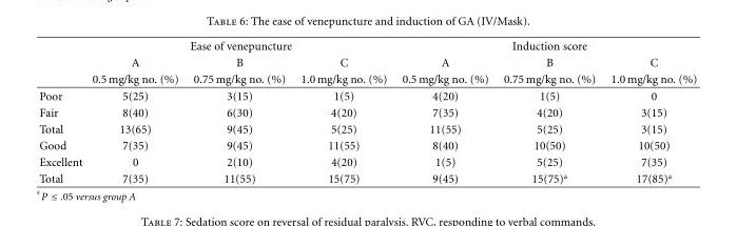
<table><thead><tr><td rowspan="3"></td><td colspan="3">Ease of venepuncture</td><td colspan="3">Induction score</td></tr><tr><td rowspan="2">A 0.5 mg/kg no. (%)</td><td rowspan="2">B 0.75 mg/kg no. (%)</td><td rowspan="2">C 1.0 mg/kg no. (%)</td><td rowspan="2">A 0.5 mg/kg no. (%)</td><td rowspan="2">B 0.75 mg/kg no. (%)</td><td rowspan="2">C 1.0 mg/kg no. (%)</td></tr><tr></tr></thead><tbody><tr><td>Poor</td><td>5(25)</td><td>3(15)</td><td>1(5)</td><td>4(20)</td><td>1(5)</td><td>0</td></tr><tr><td>Fair</td><td>8(40)</td><td>6(30)</td><td>4(20)</td><td>7(35)</td><td>4(20)</td><td>3(15)</td></tr><tr><td>Total</td><td>13(65)</td><td>9(45)</td><td>5(25)</td><td>11(55)</td><td>5(25)</td><td>3(15)</td></tr><tr><td>Good</td><td>7(35)</td><td>9(45)</td><td>11(55)</td><td>8(40)</td><td>10(50)</td><td>10(50)</td></tr><tr><td>Excellent</td><td>0</td><td>2(10)</td><td>4(20)</td><td>1(5)</td><td>5(25)</td><td>7(35)</td></tr><tr><td>Total</td><td>7(35)</td><td>11(55)</td><td>15(75)</td><td>9(45)</td><td>15(75)<sup>a</sup></td><td>17(85)<sup>a</sup></td></tr></tbody></table>